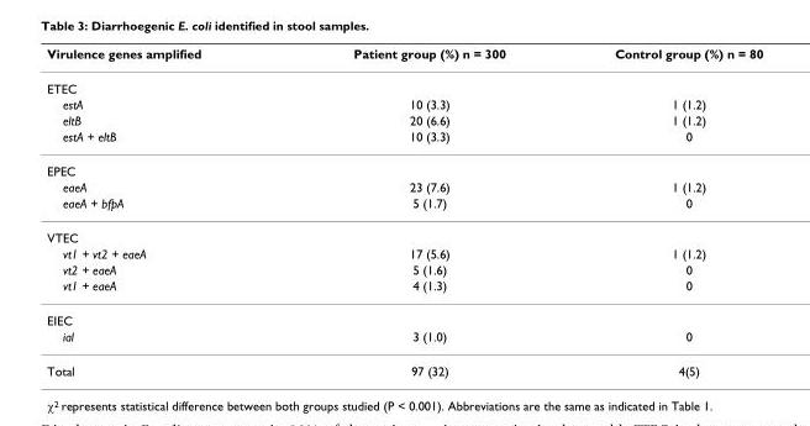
<table><thead><tr><td>Virulence genes amplified</td><td>Patient group (%) n = 300</td><td>Control group (%) n = 80</td></tr></thead><tbody><tr><td colspan="3">ETEC</td></tr><tr><td>estA</td><td>10 (3.3)</td><td>1 (1.2)</td></tr><tr><td>eltB</td><td>20 (6.6)</td><td>1 (1.2)</td></tr><tr><td>estA + eltB</td><td>10 (3.3)</td><td>0</td></tr><tr><td colspan="3">EPEC</td></tr><tr><td>eaeA</td><td>23 (7.6)</td><td>1 (1.2)</td></tr><tr><td>eaeA + bfpA</td><td>5 (1.7)</td><td>0</td></tr><tr><td colspan="3">VTEC</td></tr><tr><td>vt1 + vt2 + eaeA</td><td>17 (5.6)</td><td>1 (1.2)</td></tr><tr><td>vt2 + eaeA</td><td>5 (1.6)</td><td>0</td></tr><tr><td>vt1 + eaeA</td><td>4 (1.3)</td><td>0</td></tr><tr><td colspan="3">EIEC</td></tr><tr><td>ial</td><td>3 (1.0)</td><td>0</td></tr><tr><td>Total</td><td>97 (32)</td><td>4(5)</td></tr></tbody></table>